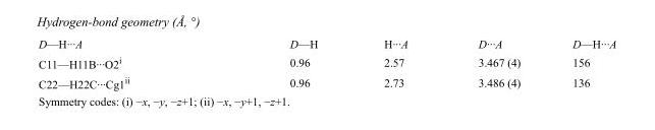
<table><tbody><tr><td>D—H···A</td><td>D—H</td><td>H···A</td><td>D···A</td><td>D—H···A</td></tr><tr><td>C11—H11B···O2<sup>i</sup></td><td>0.96</td><td>2.57</td><td>3.467 (4)</td><td>156</td></tr><tr><td>C22—H22C···Cg1<sup>ii</sup></td><td>0.96</td><td>2.73</td><td>3.486 (4)</td><td>136</td></tr></tbody></table>